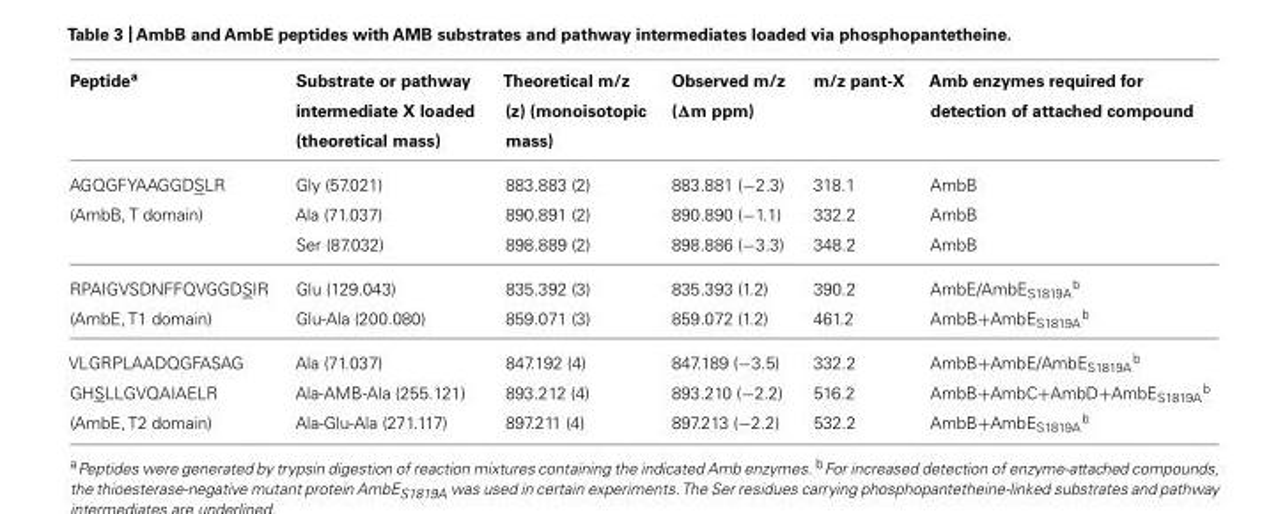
<table><thead><tr><td>Peptide<sup>a</sup></td><td>Substrate or pathway intermediate X loaded (theoretical mass)</td><td>Theoretical m/z (z) (monoisotopic mass)</td><td>Observed m/z (Δm ppm)</td><td>m/z pant-X</td><td>Amb enzymes required for detection of attached compound</td></tr></thead><tbody><tr><td>AGQGFYAAGGDSLR (AmbB, T domain)</td><td>Gly (57.021) Ala (71.037) Ser (87.032)</td><td>883.883 (2) 890.891 (2) 898.889 (2)</td><td>883.881 (−2.3) 890.890 (−1.1) 898.886 (−3.3)</td><td>318.1 332.2 348.2</td><td>AmbB AmbB AmbB</td></tr><tr><td>RPAIGVSDNFFQVGGDSIR (AmbE, T1 domain)</td><td>Glu (129.043) Glu-Ala (200.080)</td><td>835.392 (3) 859.071 (3)</td><td>835.393 (1.2) 859.072 (1.2)</td><td>390.2 461.2</td><td>AmbE/AmbE<sub>S1819A</sub><sup>b</sup> AmbB+AmbE<sub>S1819A</sub><sup>b</sup></td></tr><tr><td>VLGRPLAADQGFASAG GHSLLGVQAIAELR (AmbE, T2 domain)</td><td>Ala (71.037) Ala-AMB-Ala (255.121) Ala-Glu-Ala (271.117)</td><td>847.192 (4) 893.212 (4) 897.211 (4)</td><td>847.189 (−3.5) 893.210 (−2.2) 897.213 (−2.2)</td><td>332.2 516.2 532.2</td><td>AmbB+AmbE/AmbE<sub>S1819A</sub><sup>b</sup> AmbB+AmbC+AmbD+AmbE<sub>S1819A</sub><sup>b</sup> AmbB+AmbE<sub>S1819A</sub><sup>b</sup></td></tr></tbody></table>